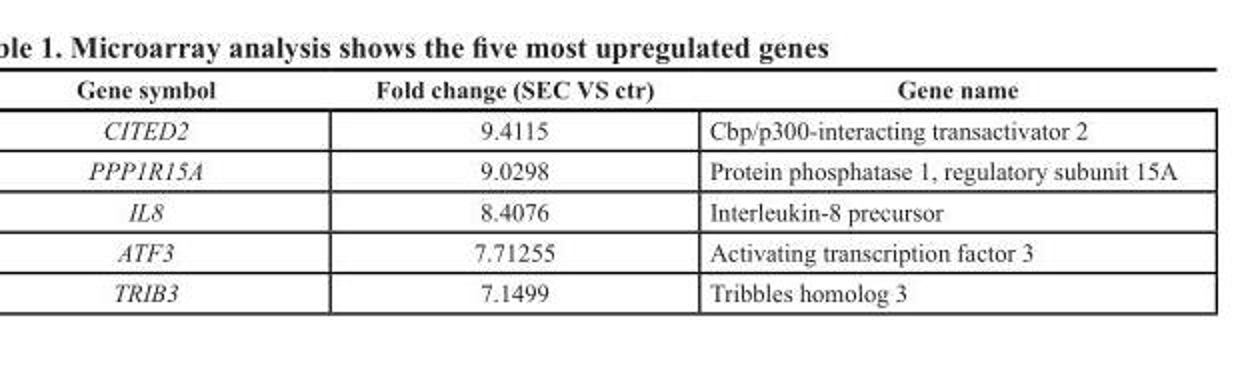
<table><thead><tr><td>Gene symbol</td><td>Fold change (SEC VS ctr)</td><td>Gene name</td></tr></thead><tbody><tr><td>CITED2</td><td>9.4115</td><td>Cbp/p300-interacting transactivator 2</td></tr><tr><td>PPP1R15A</td><td>9.0298</td><td>Protein phosphatase 1, regulatory subunit 15A</td></tr><tr><td>IL8</td><td>8.4076</td><td>Interleukin-8 precursor</td></tr><tr><td>ATF3</td><td>7.71255</td><td>Activating transcription factor 3</td></tr><tr><td>TRIB3</td><td>7.1499</td><td>Tribbles homolog 3</td></tr></tbody></table>